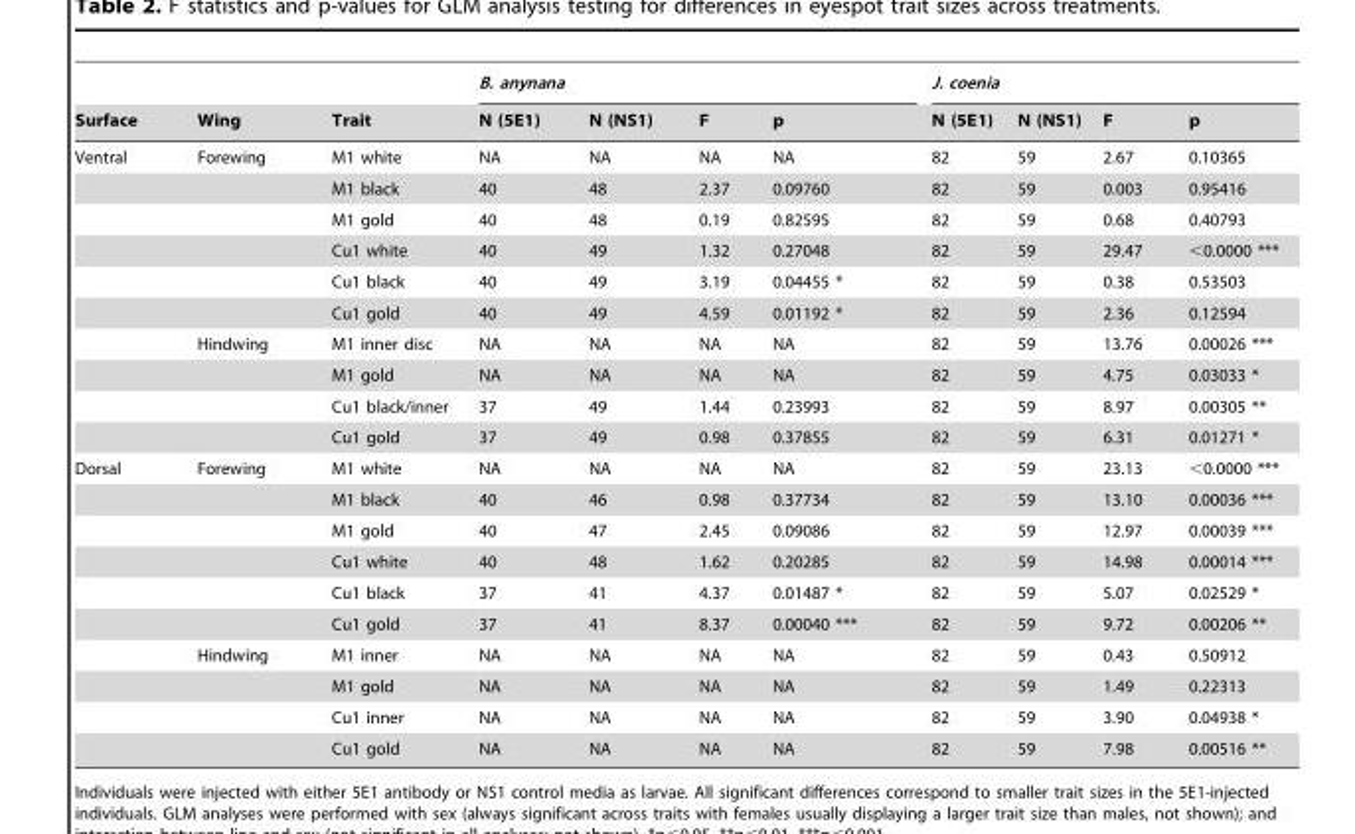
<table><thead><tr><td rowspan="2">Surface</td><td rowspan="2">Wing</td><td rowspan="2">Trait</td><td colspan="4">B. anynana</td><td colspan="4">J. coenia</td></tr><tr><td>N (5E1)</td><td>N (NS1)</td><td>F</td><td>p</td><td>N (5E1)</td><td>N (NS1)</td><td>F</td><td>p</td></tr></thead><tbody><tr><td rowspan="10">Ventral</td><td>Forewing</td><td>M1 white</td><td>NA</td><td>NA</td><td>NA</td><td>NA</td><td>82</td><td>59</td><td>2.67</td><td>0.10365</td></tr><tr><td></td><td>M1 black</td><td>40</td><td>48</td><td>2.37</td><td>0.09760</td><td>82</td><td>59</td><td>0.003</td><td>0.95416</td></tr><tr><td></td><td>M1 gold</td><td>40</td><td>48</td><td>0.19</td><td>0.82595</td><td>82</td><td>59</td><td>0.68</td><td>0.40793</td></tr><tr><td></td><td>Cu1 white</td><td>40</td><td>49</td><td>1.32</td><td>0.27048</td><td>82</td><td>59</td><td>29.47</td><td>&lt;0.0000 ***</td></tr><tr><td></td><td>Cu1 black</td><td>40</td><td>49</td><td>3.19</td><td>0.04455 *</td><td>82</td><td>59</td><td>0.38</td><td>0.53503</td></tr><tr><td></td><td>Cu1 gold</td><td>40</td><td>49</td><td>4.59</td><td>0.01192 *</td><td>82</td><td>59</td><td>2.36</td><td>0.12594</td></tr><tr><td>Hindwing</td><td>M1 inner disc</td><td>NA</td><td>NA</td><td>NA</td><td>NA</td><td>82</td><td>59</td><td>13.76</td><td>0.00026 ***</td></tr><tr><td></td><td>M1 gold</td><td>NA</td><td>NA</td><td>NA</td><td>NA</td><td>82</td><td>59</td><td>4.75</td><td>0.03033 *</td></tr><tr><td></td><td>Cu1 black/inner</td><td>37</td><td>49</td><td>1.44</td><td>0.23993</td><td>82</td><td>59</td><td>8.97</td><td>0.00305 **</td></tr><tr><td></td><td>Cu1 gold</td><td>37</td><td>49</td><td>0.98</td><td>0.37855</td><td>82</td><td>59</td><td>6.31</td><td>0.01271 *</td></tr><tr><td rowspan="10">Dorsal</td><td>Forewing</td><td>M1 white</td><td>NA</td><td>NA</td><td>NA</td><td>NA</td><td>82</td><td>59</td><td>23.13</td><td>&lt;0.0000 ***</td></tr><tr><td></td><td>M1 black</td><td>40</td><td>46</td><td>0.98</td><td>0.37734</td><td>82</td><td>59</td><td>13.10</td><td>0.00036 ***</td></tr><tr><td></td><td>M1 gold</td><td>40</td><td>47</td><td>2.45</td><td>0.09086</td><td>82</td><td>59</td><td>12.97</td><td>0.00039 ***</td></tr><tr><td></td><td>Cu1 white</td><td>40</td><td>48</td><td>1.62</td><td>0.20285</td><td>82</td><td>59</td><td>14.98</td><td>0.00014 ***</td></tr><tr><td></td><td>Cu1 black</td><td>37</td><td>41</td><td>4.37</td><td>0.01487 *</td><td>82</td><td>59</td><td>5.07</td><td>0.02529 *</td></tr><tr><td></td><td>Cu1 gold</td><td>37</td><td>41</td><td>8.37</td><td>0.00040 ***</td><td>82</td><td>59</td><td>9.72</td><td>0.00206 **</td></tr><tr><td>Hindwing</td><td>M1 inner</td><td>NA</td><td>NA</td><td>NA</td><td>NA</td><td>82</td><td>59</td><td>0.43</td><td>0.50912</td></tr><tr><td></td><td>M1 gold</td><td>NA</td><td>NA</td><td>NA</td><td>NA</td><td>82</td><td>59</td><td>1.49</td><td>0.22313</td></tr><tr><td></td><td>Cu1 inner</td><td>NA</td><td>NA</td><td>NA</td><td>NA</td><td>82</td><td>59</td><td>3.90</td><td>0.04938 *</td></tr><tr><td></td><td>Cu1 gold</td><td>NA</td><td>NA</td><td>NA</td><td>NA</td><td>82</td><td>59</td><td>7.98</td><td>0.00516 **</td></tr></tbody></table>